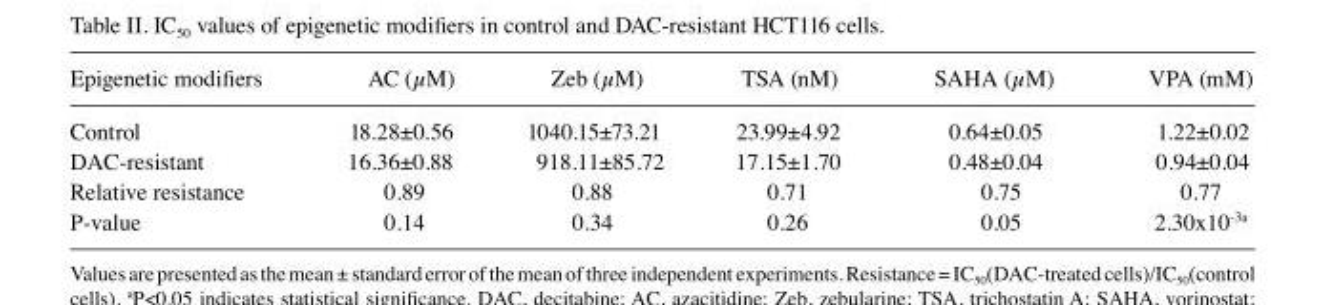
<table><thead><tr><td>Epigenetic modifiers</td><td>AC (µM)</td><td>Zeb (µM)</td><td>TSA (nM)</td><td>SAHA (µM)</td><td>VPA (mM)</td></tr></thead><tbody><tr><td>Control</td><td>18.28±0.56</td><td>1040.15±73.21</td><td>23.99±4.92</td><td>0.64±0.05</td><td>1.22±0.02</td></tr><tr><td>DAC‑resistant</td><td>16.36±0.88</td><td>918.11±85.72</td><td>17.15±1.70</td><td>0.48±0.04</td><td>0.94±0.04</td></tr><tr><td>Relative resistance</td><td>0.89</td><td>0.88</td><td>0.71</td><td>0.75</td><td>0.77</td></tr><tr><td>P‑value</td><td>0.14</td><td>0.34</td><td>0.26</td><td>0.05</td><td>2.30x10-3a</td></tr></tbody></table>